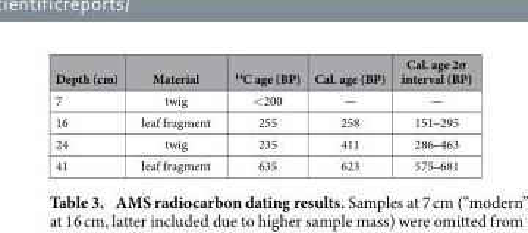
<table><thead><tr><td>Depth (cm)</td><td>Material</td><td><sup>14</sup>C age (BP)</td><td>Cal. age (BP)</td><td>Cal. age 2σ interval (BP)</td></tr></thead><tbody><tr><td>7</td><td>twig</td><td>&lt; 200</td><td>—</td><td>—</td></tr><tr><td>16</td><td>leaf fragment</td><td>255</td><td>258</td><td>151‒ 295</td></tr><tr><td>24</td><td>twig</td><td>235</td><td>411</td><td>286‒ 463</td></tr><tr><td>41</td><td>leaf fragment</td><td>635</td><td>623</td><td>575‒ 681</td></tr></tbody></table>